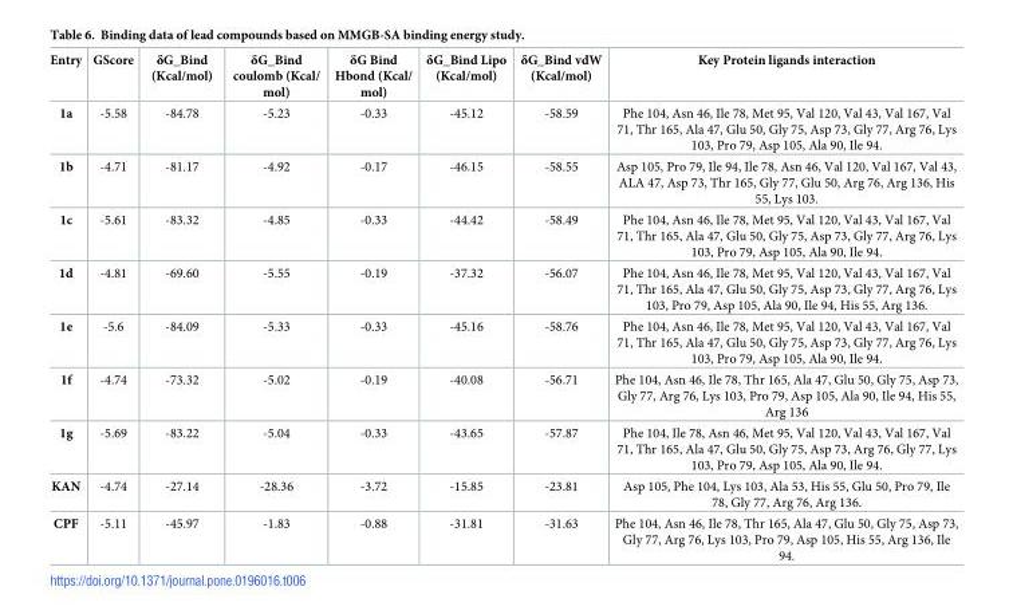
<table><thead><tr><td>Entry</td><td>GScore</td><td>δG_Bind (Kcal/mol)</td><td>δG_Bind coulomb (Kcal/ mol)</td><td>δG Bind Hbond (Kcal/ mol)</td><td>δG_Bind Lipo (Kcal/mol)</td><td>δG_Bind vdW (Kcal/mol)</td><td>Key Protein ligands interaction</td></tr></thead><tbody><tr><td>1a</td><td>-5.58</td><td>-84.78</td><td>-5.23</td><td>-0.33</td><td>-45.12</td><td>-58.59</td><td>Phe 104, Asn 46, Ile 78, Met 95, Val 120, Val 43, Val 167, Val 71, Thr 165, Ala 47, Glu 50, Gly 75, Asp 73, Gly 77, Arg 76, Lys 103, Pro 79, Asp 105, Ala 90, Ile 94.</td></tr><tr><td>1b</td><td>-4.71</td><td>-81.17</td><td>-4.92</td><td>-0.17</td><td>-46.15</td><td>-58.55</td><td>Asp 105, Pro 79, Ile 94, Ile 78, Asn 46, Val 120, Val 167, Val 43, ALA 47, Asp 73, Thr 165, Gly 77, Glu 50, Arg 76, Arg 136, His 55, Lys 103.</td></tr><tr><td>1c</td><td>-5.61</td><td>-83.32</td><td>-4.85</td><td>-0.33</td><td>-44.42</td><td>-58.49</td><td>Phe 104, Asn 46, Ile 78, Met 95, Val 120, Val 43, Val 167, Val 71, Thr 165, Ala 47, Glu 50, Gly 75, Asp 73, Gly 77, Arg 76, Lys 103, Pro 79, Asp 105, Ala 90, Ile 94.</td></tr><tr><td>1d</td><td>-4.81</td><td>-69.60</td><td>-5.55</td><td>-0.19</td><td>-37.32</td><td>-56.07</td><td>Phe 104, Asn 46, Ile 78, Met 95, Val 120, Val 43, Val 167, Val 71, Thr 165, Ala 47, Glu 50, Gly 75, Asp 73, Gly 77, Arg 76, Lys 103, Pro 79, Asp 105, Ala 90, Ile 94, His 55, Arg 136.</td></tr><tr><td>1e</td><td>-5.6</td><td>-84.09</td><td>-5.33</td><td>-0.33</td><td>-45.16</td><td>-58.76</td><td>Phe 104, Asn 46, Ile 78, Met 95, Val 120, Val 43, Val 167, Val 71, Thr 165, Ala 47, Glu 50, Gly 75, Asp 73, Gly 77, Arg 76, Lys 103, Pro 79, Asp 105, Ala 90, Ile 94.</td></tr><tr><td>1f</td><td>-4.74</td><td>-73.32</td><td>-5.02</td><td>-0.19</td><td>-40.08</td><td>-56.71</td><td>Phe 104, Asn 46, Ile 78, Thr 165, Ala 47, Glu 50, Gly 75, Asp 73, Gly 77, Arg 76, Lys 103, Pro 79, Asp 105, Ala 90, Ile 94, His 55, Arg 136</td></tr><tr><td>1g</td><td>-5.69</td><td>-83.22</td><td>-5.04</td><td>-0.33</td><td>-43.65</td><td>-57.87</td><td>Phe 104, Ile 78, Asn 46, Met 95, Val 120, Val 43, Val 167, Val 71, Thr 165, Ala 47, Glu 50, Gly 75, Asp 73, Arg 76, Gly 77, Lys 103, Pro 79, Asp 105, Ala 90, Ile 94.</td></tr><tr><td>KAN</td><td>-4.74</td><td>-27.14</td><td>-28.36</td><td>-3.72</td><td>-15.85</td><td>-23.81</td><td>Asp 105, Phe 104, Lys 103, Ala 53, His 55, Glu 50, Pro 79, Ile 78, Gly 77, Arg 76, Arg 136.</td></tr><tr><td>CPF</td><td>-5.11</td><td>-45.97</td><td>-1.83</td><td>-0.88</td><td>-31.81</td><td>-31.63</td><td>Phe 104, Asn 46, Ile 78, Thr 165, Ala 47, Glu 50, Gly 75, Asp 73, Gly 77, Arg 76, Lys 103, Pro 79, Asp 105, His 55, Arg 136, Ile 94.</td></tr></tbody></table>